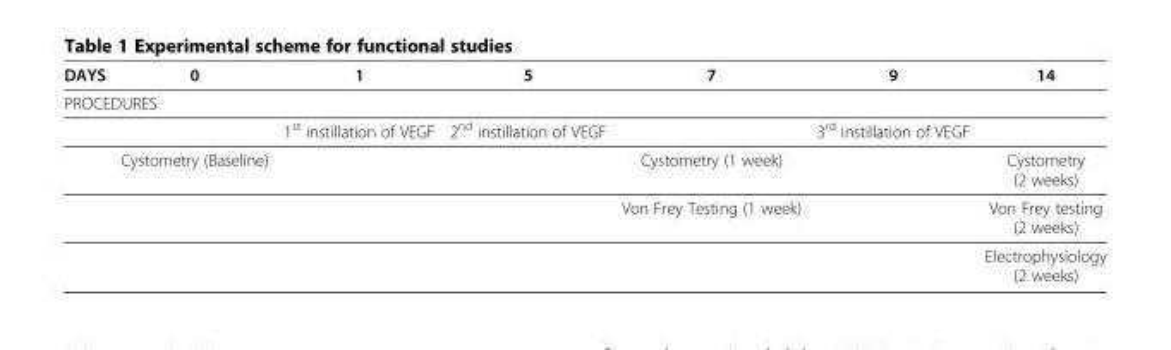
<table><thead><tr><td>DAYS</td><td>0</td><td>1</td><td>5</td><td>7</td><td>9</td><td>14</td></tr></thead><tbody><tr><td colspan="7">PROCEDURES</td></tr><tr><td></td><td></td><td>1<sup>st</sup> instillation of VEGF</td><td>2<sup>nd</sup> instillation of VEGF</td><td></td><td>3<sup>rd</sup> instillation of VEGF</td><td></td></tr><tr><td></td><td>Cystometry (Baseline)</td><td></td><td></td><td>Cystometry (1 week)</td><td></td><td>Cystometry (2 weeks)</td></tr><tr><td></td><td></td><td></td><td></td><td>Von Frey Testing (1 week)</td><td></td><td>Von Frey testing (2 weeks)</td></tr><tr><td></td><td></td><td></td><td></td><td></td><td></td><td>Electrophysiology (2 weeks)</td></tr></tbody></table>